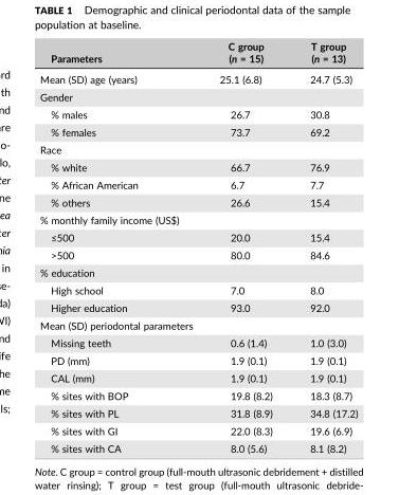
<table><thead><tr><td>Parameters</td><td>C group (n = 15)</td><td>T group (n = 13)</td></tr></thead><tbody><tr><td>Mean (SD) age (years)</td><td>25.1 (6.8)</td><td>24.7 (5.3)</td></tr><tr><td colspan="3">Gender</td></tr><tr><td>% males</td><td>26.7</td><td>30.8</td></tr><tr><td>% females</td><td>73.7</td><td>69.2</td></tr><tr><td colspan="3">Race</td></tr><tr><td>% white</td><td>66.7</td><td>76.9</td></tr><tr><td>% African American</td><td>6.7</td><td>7.7</td></tr><tr><td>% others</td><td>26.6</td><td>15.4</td></tr><tr><td colspan="3">% monthly family income (US$)</td></tr><tr><td>≤500</td><td>20.0</td><td>15.4</td></tr><tr><td>&gt;500</td><td>80.0</td><td>84.6</td></tr><tr><td colspan="3">% education</td></tr><tr><td>High school</td><td>7.0</td><td>8.0</td></tr><tr><td>Higher education</td><td>93.0</td><td>92.0</td></tr><tr><td colspan="3">Mean (SD) periodontal parameters</td></tr><tr><td>Missing teeth</td><td>0.6 (1.4)</td><td>1.0 (3.0)</td></tr><tr><td>PD (mm)</td><td>1.9 (0.1)</td><td>1.9 (0.1)</td></tr><tr><td>CAL (mm)</td><td>1.9 (0.1)</td><td>1.9 (0.1)</td></tr><tr><td>% sites with BOP</td><td>19.8 (8.2)</td><td>18.3 (8.7)</td></tr><tr><td>% sites with PL</td><td>31.8 (8.9)</td><td>34.8 (17.2)</td></tr><tr><td>% sites with GI</td><td>22.0 (8.3)</td><td>19.6 (6.9)</td></tr><tr><td>% sites with CA</td><td>8.0 (5.6)</td><td>8.1 (8.2)</td></tr></tbody></table>